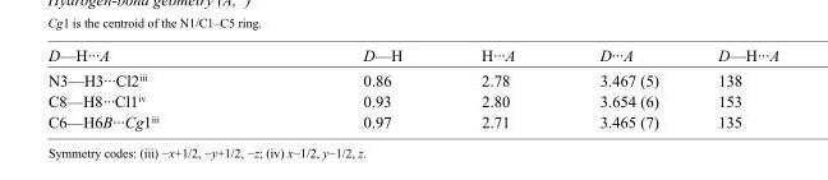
<table><tbody><tr><td>D—H···A</td><td>D—H</td><td>H···A</td><td>D···A</td><td>D—H···A</td></tr><tr><td>N3—H3···Cl2<sup>iii</sup></td><td>0.86</td><td>2.78</td><td>3.467 (5)</td><td>138</td></tr><tr><td>C8—H8···Cl1<sup>iv</sup></td><td>0.93</td><td>2.80</td><td>3.654 (6)</td><td>153</td></tr><tr><td>C6—H6B···Cg1<sup>iii</sup></td><td>0.97</td><td>2.71</td><td>3.465 (7)</td><td>135</td></tr></tbody></table>